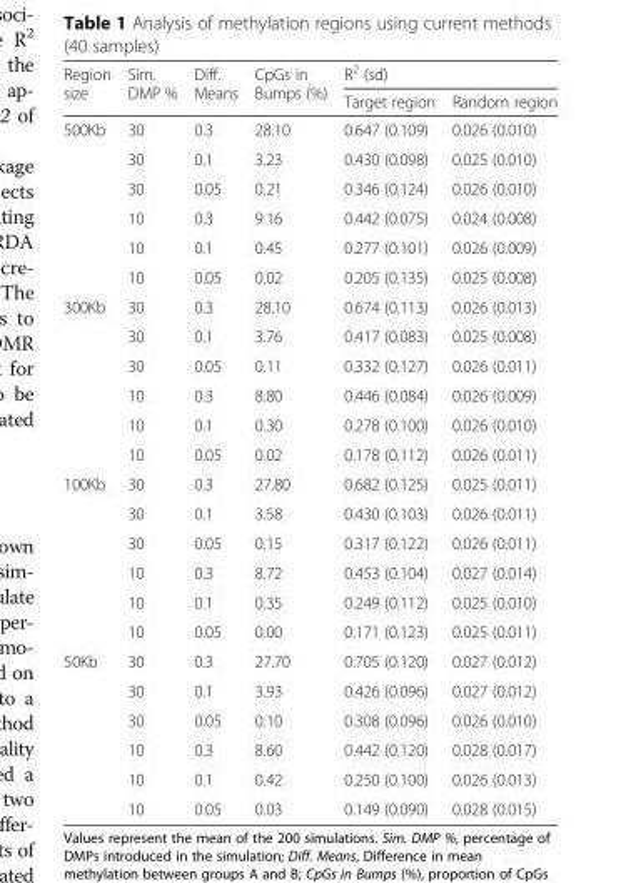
<table><thead><tr><td rowspan="2">Region size</td><td rowspan="2">Sim. DMP %</td><td rowspan="2">Diff. Means</td><td rowspan="2">CpGs in Bumps (%)</td><td colspan="2">R<sup>2</sup> (sd)</td></tr><tr><td>Target region</td><td>Random region</td></tr></thead><tbody><tr><td rowspan="6">500Kb</td><td>30</td><td>0.3</td><td>28.10</td><td>0.647 (0.109)</td><td>0.026 (0.010)</td></tr><tr><td>30</td><td>0.1</td><td>3.23</td><td>0.430 (0.098)</td><td>0.025 (0.010)</td></tr><tr><td>30</td><td>0.05</td><td>0.21</td><td>0.346 (0.124)</td><td>0.026 (0.010)</td></tr><tr><td>10</td><td>0.3</td><td>9.16</td><td>0.442 (0.075)</td><td>0.024 (0.008)</td></tr><tr><td>10</td><td>0.1</td><td>0.45</td><td>0.277 (0.101)</td><td>0.026 (0.009)</td></tr><tr><td>10</td><td>0.05</td><td>0.02</td><td>0.205 (0.135)</td><td>0.025 (0.008)</td></tr><tr><td rowspan="6">300Kb</td><td>30</td><td>0.3</td><td>28.10</td><td>0.674 (0.113)</td><td>0.026 (0.013)</td></tr><tr><td>30</td><td>0.1</td><td>3.76</td><td>0.417 (0.083)</td><td>0.025 (0.008)</td></tr><tr><td>30</td><td>0.05</td><td>0.11</td><td>0.332 (0.127)</td><td>0.026 (0.011)</td></tr><tr><td>10</td><td>0.3</td><td>8.80</td><td>0.446 (0.084)</td><td>0.026 (0.009)</td></tr><tr><td>10</td><td>0.1</td><td>0.30</td><td>0.278 (0.100)</td><td>0.026 (0.010)</td></tr><tr><td>10</td><td>0.05</td><td>0.02</td><td>0.178 (0.112)</td><td>0.026 (0.011)</td></tr><tr><td rowspan="6">100Kb</td><td>30</td><td>0.3</td><td>27.80</td><td>0.682 (0.125)</td><td>0.025 (0.011)</td></tr><tr><td>30</td><td>0.1</td><td>3.58</td><td>0.430 (0.103)</td><td>0.026 (0.011)</td></tr><tr><td>30</td><td>0.05</td><td>0.15</td><td>0.317 (0.122)</td><td>0.026 (0.011)</td></tr><tr><td>10</td><td>0.3</td><td>8.72</td><td>0.453 (0.104)</td><td>0.027 (0.014)</td></tr><tr><td>10</td><td>0.1</td><td>0.35</td><td>0.249 (0.112)</td><td>0.025 (0.010)</td></tr><tr><td>10</td><td>0.05</td><td>0.00</td><td>0.171 (0.123)</td><td>0.025 (0.011)</td></tr><tr><td rowspan="6">50Kb</td><td>30</td><td>0.3</td><td>27.70</td><td>0.705 (0.120)</td><td>0.027 (0.012)</td></tr><tr><td>30</td><td>0.1</td><td>3.93</td><td>0.426 (0.096)</td><td>0.027 (0.012)</td></tr><tr><td>30</td><td>0.05</td><td>0.10</td><td>0.308 (0.096)</td><td>0.026 (0.010)</td></tr><tr><td>10</td><td>0.3</td><td>8.60</td><td>0.442 (0.120)</td><td>0.028 (0.017)</td></tr><tr><td>10</td><td>0.1</td><td>0.42</td><td>0.250 (0.100)</td><td>0.026 (0.013)</td></tr><tr><td>10</td><td>0.05</td><td>0.03</td><td>0.149 (0.090)</td><td>0.028 (0.015)</td></tr></tbody></table>